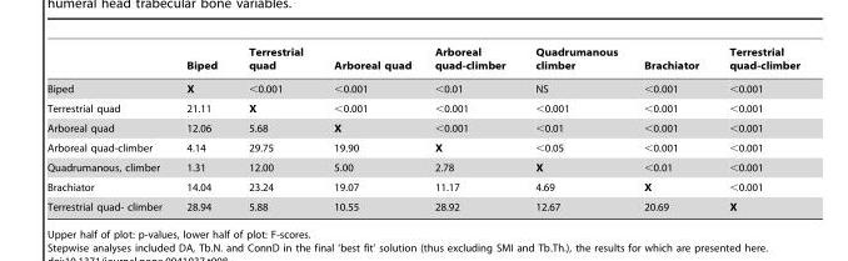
<table><thead><tr><td></td><td>Biped</td><td>Terrestrial quad</td><td>Arboreal quad</td><td>Arboreal quad-climber</td><td>Quadrumanous climber</td><td>Brachiator</td><td>Terrestrial quad-climber</td></tr></thead><tbody><tr><td>Biped</td><td>X</td><td>&lt;0.001</td><td>&lt;0.001</td><td>&lt;0.01</td><td>NS</td><td>&lt;0.001</td><td>&lt;0.001</td></tr><tr><td>Terrestrial quad</td><td>21.11</td><td>X</td><td>&lt;0.001</td><td>&lt;0.001</td><td>&lt;0.001</td><td>&lt;0.001</td><td>&lt;0.001</td></tr><tr><td>Arboreal quad</td><td>12.06</td><td>5.68</td><td>X</td><td>&lt;0.001</td><td>&lt;0.01</td><td>&lt;0.001</td><td>&lt;0.001</td></tr><tr><td>Arboreal quad-climber</td><td>4.14</td><td>29.75</td><td>19.90</td><td>X</td><td>&lt;0.05</td><td>&lt;0.001</td><td>&lt;0.001</td></tr><tr><td>Quadrumanous, climber</td><td>1.31</td><td>12.00</td><td>5.00</td><td>2.78</td><td>X</td><td>&lt;0.01</td><td>&lt;0.001</td></tr><tr><td>Brachiator</td><td>14.04</td><td>23.24</td><td>19.07</td><td>11.17</td><td>4.69</td><td>X</td><td>&lt;0.001</td></tr><tr><td>Terrestrial quad- climber</td><td>28.94</td><td>5.88</td><td>10.55</td><td>28.92</td><td>12.67</td><td>20.69</td><td>X</td></tr></tbody></table>